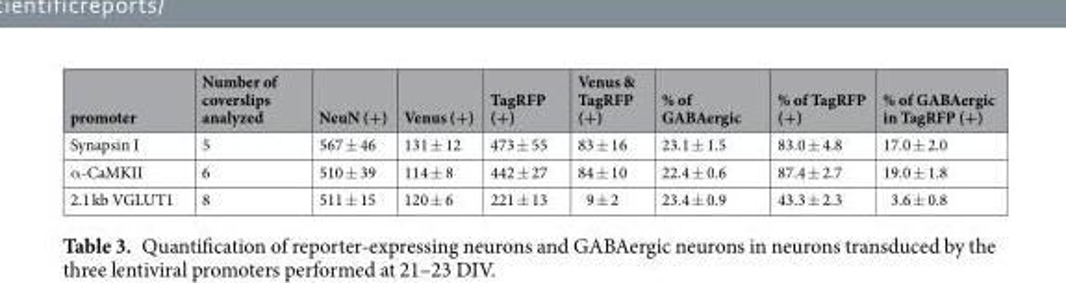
<table><thead><tr><td>promoter</td><td>Number of coverslips analyzed</td><td>NeuN (+)</td><td>Venus (+)</td><td>TagRFP (+)</td><td>Venus &amp; TagRFP (+)</td><td>% of GABAergic</td><td>% of TagRFP (+)</td><td>% of GABAergic in TagRFP (+)</td></tr></thead><tbody><tr><td>Synapsin I</td><td>5</td><td>567 ± 46</td><td>131 ± 12</td><td>473 ± 55</td><td>83 ± 16</td><td>23.1 ± 1.5</td><td>83.0 ± 4.8</td><td>17.0 ± 2.0</td></tr><tr><td>α-CaMKII</td><td>6</td><td>510 ± 39</td><td>114 ± 8</td><td>442 ± 27</td><td>84 ± 10</td><td>22.4 ± 0.6</td><td>87.4 ± 2.7</td><td>19.0 ± 1.8</td></tr><tr><td>2.1 kb VGLUT1</td><td>8</td><td>511 ± 15</td><td>120 ± 6</td><td>221 ± 13</td><td>9 ± 2</td><td>23.4 ± 0.9</td><td>43.3 ± 2.3</td><td>3.6 ± 0.8</td></tr></tbody></table>